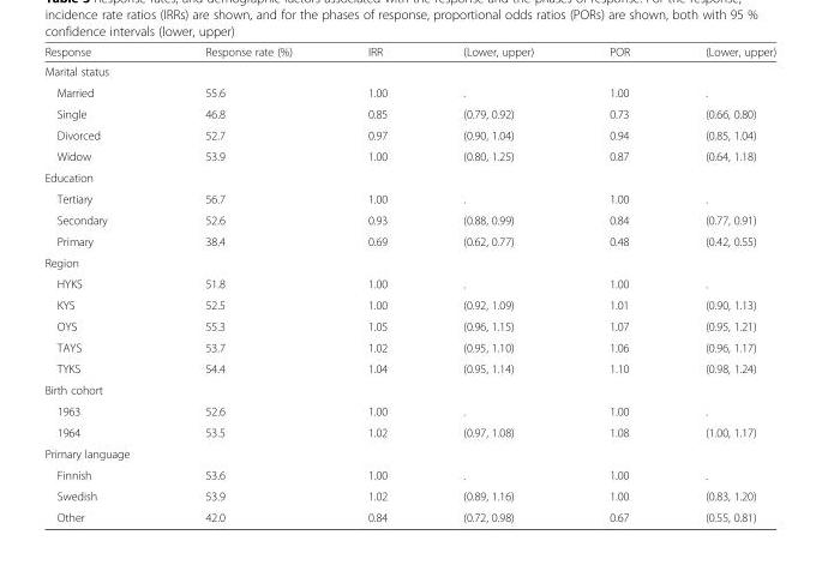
<table><thead><tr><td>Response</td><td>Response rate (%)</td><td>IRR</td><td>(Lower, upper)</td><td>POR</td><td>(Lower, upper)</td></tr></thead><tbody><tr><td colspan="6">Marital status</td></tr><tr><td>Married</td><td>55.6</td><td>1.00</td><td>.</td><td>1.00</td><td>.</td></tr><tr><td>Single</td><td>46.8</td><td>0.85</td><td>(0.79, 0.92)</td><td>0.73</td><td>(0.66, 0.80)</td></tr><tr><td>Divorced</td><td>52.7</td><td>0.97</td><td>(0.90, 1.04)</td><td>0.94</td><td>(0.85, 1.04)</td></tr><tr><td>Widow</td><td>53.9</td><td>1.00</td><td>(0.80, 1.25)</td><td>0.87</td><td>(0.64, 1.18)</td></tr><tr><td colspan="6">Education</td></tr><tr><td>Tertiary</td><td>56.7</td><td>1.00</td><td>.</td><td>1.00</td><td>.</td></tr><tr><td>Secondary</td><td>52.6</td><td>0.93</td><td>(0.88, 0.99)</td><td>0.84</td><td>(0.77, 0.91)</td></tr><tr><td>Primary</td><td>38.4</td><td>0.69</td><td>(0.62, 0.77)</td><td>0.48</td><td>(0.42, 0.55)</td></tr><tr><td colspan="6">Region</td></tr><tr><td>HYKS</td><td>51.8</td><td>1.00</td><td>.</td><td>1.00</td><td>.</td></tr><tr><td>KYS</td><td>52.5</td><td>1.00</td><td>(0.92, 1.09)</td><td>1.01</td><td>(0.90, 1.13)</td></tr><tr><td>OYS</td><td>55.3</td><td>1.05</td><td>(0.96, 1.15)</td><td>1.07</td><td>(0.95, 1.21)</td></tr><tr><td>TAYS</td><td>53.7</td><td>1.02</td><td>(0.95, 1.10)</td><td>1.06</td><td>(0.96, 1.17)</td></tr><tr><td>TYKS</td><td>54.4</td><td>1.04</td><td>(0.95, 1.14)</td><td>1.10</td><td>(0.98, 1.24)</td></tr><tr><td colspan="6">Birth cohort</td></tr><tr><td>1963</td><td>52.6</td><td>1.00</td><td>.</td><td>1.00</td><td>.</td></tr><tr><td>1964</td><td>53.5</td><td>1.02</td><td>(0.97, 1.08)</td><td>1.08</td><td>(1.00, 1.17)</td></tr><tr><td colspan="6">Primary language</td></tr><tr><td>Finnish</td><td>53.6</td><td>1.00</td><td>.</td><td>1.00</td><td>.</td></tr><tr><td>Swedish</td><td>53.9</td><td>1.02</td><td>(0.89, 1.16)</td><td>1.00</td><td>(0.83, 1.20)</td></tr><tr><td>Other</td><td>42.0</td><td>0.84</td><td>(0.72, 0.98)</td><td>0.67</td><td>(0.55, 0.81)</td></tr></tbody></table>